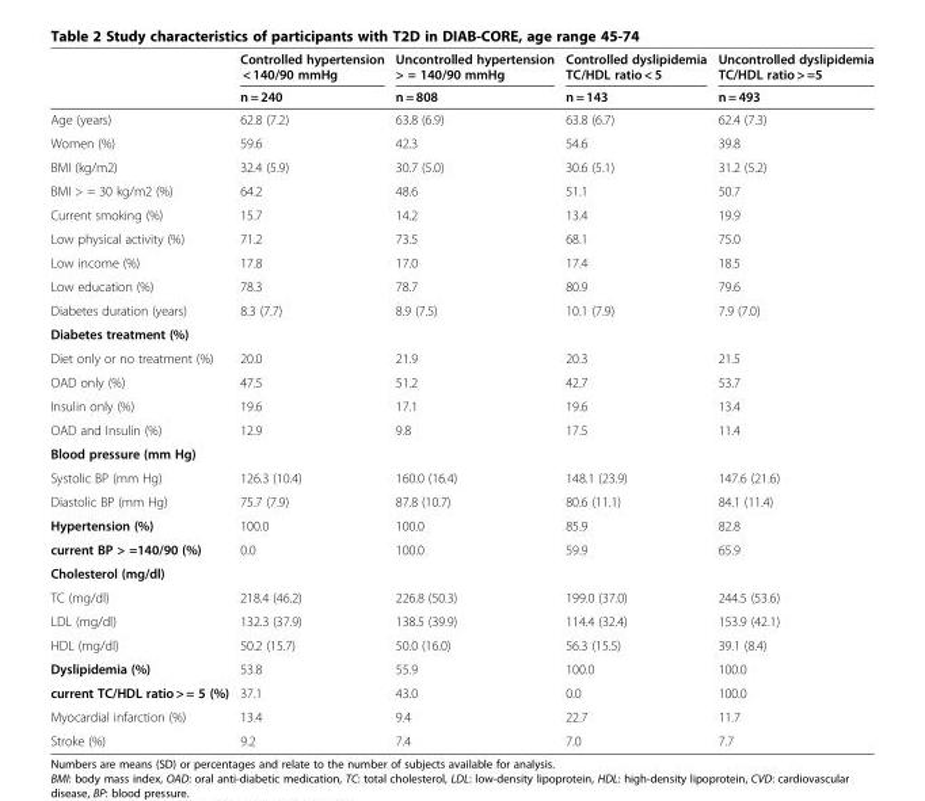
<table><thead><tr><td rowspan="2"></td><td rowspan="2">Controlled hypertension &lt; 140/90 mmHg n = 240</td><td rowspan="2">Uncontrolled hypertension &gt; = 140/90 mmHg n = 808</td><td rowspan="2">Controlled dyslipidemia TC/HDL ratio &lt; 5 n = 143</td><td rowspan="2">Uncontrolled dyslipidemia TC/HDL ratio &gt; =5 n = 493</td></tr><tr></tr></thead><tbody><tr><td>Age (years)</td><td>62.8 (7.2)</td><td>63.8 (6.9)</td><td>63.8 (6.7)</td><td>62.4 (7.3)</td></tr><tr><td>Women (%)</td><td>59.6</td><td>42.3</td><td>54.6</td><td>39.8</td></tr><tr><td>BMI (kg/m2)</td><td>32.4 (5.9)</td><td>30.7 (5.0)</td><td>30.6 (5.1)</td><td>31.2 (5.2)</td></tr><tr><td>BMI &gt; = 30 kg/m2 (%)</td><td>64.2</td><td>48.6</td><td>51.1</td><td>50.7</td></tr><tr><td>Current smoking (%)</td><td>15.7</td><td>14.2</td><td>13.4</td><td>19.9</td></tr><tr><td>Low physical activity (%)</td><td>71.2</td><td>73.5</td><td>68.1</td><td>75.0</td></tr><tr><td>Low income (%)</td><td>17.8</td><td>17.0</td><td>17.4</td><td>18.5</td></tr><tr><td>Low education (%)</td><td>78.3</td><td>78.7</td><td>80.9</td><td>79.6</td></tr><tr><td>Diabetes duration (years)</td><td>8.3 (7.7)</td><td>8.9 (7.5)</td><td>10.1 (7.9)</td><td>7.9 (7.0)</td></tr><tr><td colspan="5">Diabetes treatment (%)</td></tr><tr><td>Diet only or no treatment (%)</td><td>20.0</td><td>21.9</td><td>20.3</td><td>21.5</td></tr><tr><td>OAD only (%)</td><td>47.5</td><td>51.2</td><td>42.7</td><td>53.7</td></tr><tr><td>Insulin only (%)</td><td>19.6</td><td>17.1</td><td>19.6</td><td>13.4</td></tr><tr><td>OAD and Insulin (%)</td><td>12.9</td><td>9.8</td><td>17.5</td><td>11.4</td></tr><tr><td colspan="5">Blood pressure (mm Hg)</td></tr><tr><td>Systolic BP (mm Hg)</td><td>126.3 (10.4)</td><td>160.0 (16.4)</td><td>148.1 (23.9)</td><td>147.6 (21.6)</td></tr><tr><td>Diastolic BP (mm Hg)</td><td>75.7 (7.9)</td><td>87.8 (10.7)</td><td>80.6 (11.1)</td><td>84.1 (11.4)</td></tr><tr><td>Hypertension (%)</td><td>100.0</td><td>100.0</td><td>85.9</td><td>82.8</td></tr><tr><td>current BP &gt; =140/90 (%)</td><td>0.0</td><td>100.0</td><td>59.9</td><td>65.9</td></tr><tr><td colspan="5">Cholesterol (mg/dl)</td></tr><tr><td>TC (mg/dl)</td><td>218.4 (46.2)</td><td>226.8 (50.3)</td><td>199.0 (37.0)</td><td>244.5 (53.6)</td></tr><tr><td>LDL (mg/dl)</td><td>132.3 (37.9)</td><td>138.5 (39.9)</td><td>114.4 (32.4)</td><td>153.9 (42.1)</td></tr><tr><td>HDL (mg/dl)</td><td>50.2 (15.7)</td><td>50.0 (16.0)</td><td>56.3 (15.5)</td><td>39.1 (8.4)</td></tr><tr><td>Dyslipidemia (%)</td><td>53.8</td><td>55.9</td><td>100.0</td><td>100.0</td></tr><tr><td>current TC/HDL ratio &gt; = 5 (%)</td><td>37.1</td><td>43.0</td><td>0.0</td><td>100.0</td></tr><tr><td>Myocardial infarction (%)</td><td>13.4</td><td>9.4</td><td>22.7</td><td>11.7</td></tr><tr><td>Stroke (%)</td><td>9.2</td><td>7.4</td><td>7.0</td><td>7.7</td></tr></tbody></table>